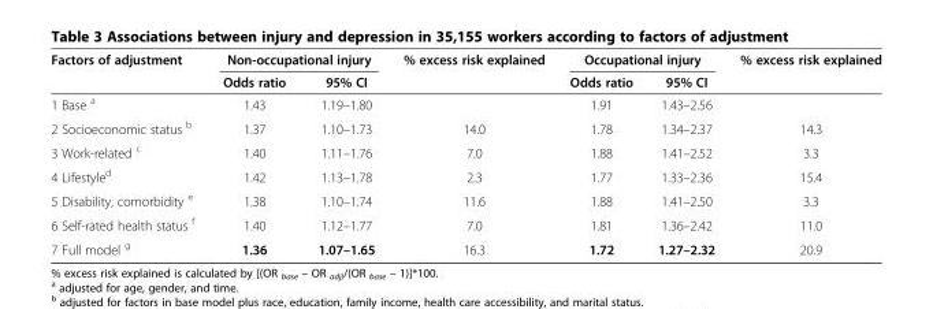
<table><thead><tr><td rowspan="2">Factors of adjustment</td><td colspan="2">Non-occupational injury</td><td rowspan="2">% excess risk explained</td><td colspan="2">Occupational injury</td><td rowspan="2">% excess risk explained</td></tr><tr><td>Odds ratio</td><td>95% CI</td><td>Odds ratio</td><td>95% CI</td></tr></thead><tbody><tr><td>1 Base <sup>a</sup></td><td>1.43</td><td>1.19–1.80</td><td></td><td>1.91</td><td>1.43–2.56</td><td></td></tr><tr><td>2 Socioeconomic status <sup>b</sup></td><td>1.37</td><td>1.10–1.73</td><td>14.0</td><td>1.78</td><td>1.34–2.37</td><td>14.3</td></tr><tr><td>3 Work-related <sup>c</sup></td><td>1.40</td><td>1.11–1.76</td><td>7.0</td><td>1.88</td><td>1.41–2.52</td><td>3.3</td></tr><tr><td>4 Lifestyle<sup>d</sup></td><td>1.42</td><td>1.13–1.78</td><td>2.3</td><td>1.77</td><td>1.33–2.36</td><td>15.4</td></tr><tr><td>5 Disability, comorbidity <sup>e</sup></td><td>1.38</td><td>1.10–1.74</td><td>11.6</td><td>1.88</td><td>1.41–2.50</td><td>3.3</td></tr><tr><td>6 Self-rated health status <sup>f</sup></td><td>1.40</td><td>1.12–1.77</td><td>7.0</td><td>1.81</td><td>1.36–2.42</td><td>11.0</td></tr><tr><td>7 Full model <sup>g</sup></td><td>1.36</td><td>1.07–1.65</td><td>16.3</td><td>1.72</td><td>1.27–2.32</td><td>20.9</td></tr></tbody></table>